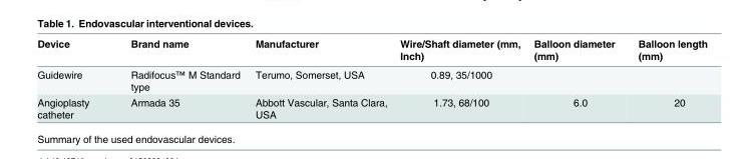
<table><thead><tr><td>Device</td><td>Brand name</td><td>Manufacturer</td><td>Wire/Shaft diameter (mm, Inch)</td><td>Balloon diameter (mm)</td><td>Balloon length (mm)</td></tr></thead><tbody><tr><td>Guidewire</td><td>Radifocus<sup>™</sup> M Standard type</td><td>Terumo, Somerset, USA</td><td>0.89, 35/1000</td><td></td><td></td></tr><tr><td>Angioplasty catheter</td><td>Armada 35</td><td>Abbott Vascular, Santa Clara, USA</td><td>1.73, 68/100</td><td>6.0</td><td>20</td></tr></tbody></table>